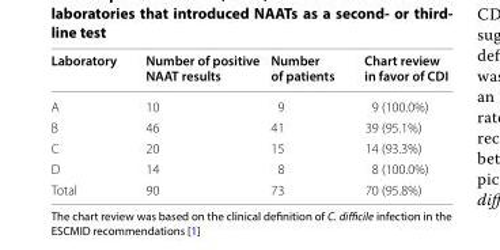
<table><thead><tr><td>Laboratory</td><td>Number of positive NAAT results</td><td>Number of patients</td><td>Chart review in favor of CDI</td></tr></thead><tbody><tr><td>A</td><td>10</td><td>9</td><td>9 (100.0%)</td></tr><tr><td>B</td><td>46</td><td>41</td><td>39 (95.1%)</td></tr><tr><td>C</td><td>20</td><td>15</td><td>14 (93.3%)</td></tr><tr><td>D</td><td>14</td><td>8</td><td>8 (100.0%)</td></tr><tr><td>Total</td><td>90</td><td>73</td><td>70 (95.8%)</td></tr></tbody></table>